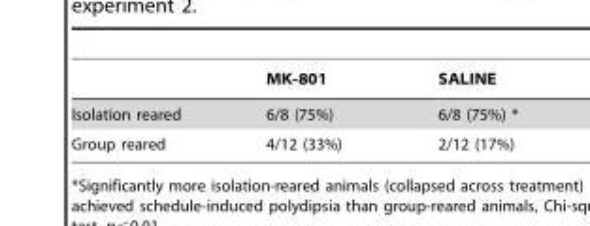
<table><thead><tr><td></td><td>MK-801</td><td>SALINE</td></tr></thead><tbody><tr><td>Isolation reared</td><td>6/8 (75%)</td><td>6/8 (75%) *</td></tr><tr><td>Group reared</td><td>4/12 (33%)</td><td>2/12 (17%)</td></tr></tbody></table>